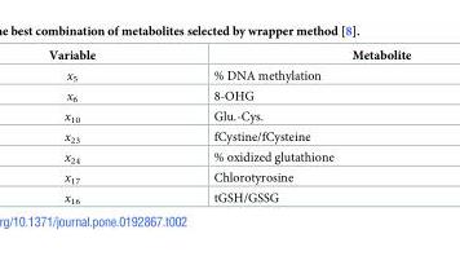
<table><thead><tr><td>Variable</td><td>Metabolite</td></tr></thead><tbody><tr><td>x<sub>5</sub></td><td>% DNA methylation</td></tr><tr><td>x<sub>6</sub></td><td>8-OHG</td></tr><tr><td>x<sub>10</sub></td><td>Glu.-Cys.</td></tr><tr><td>x<sub>23</sub></td><td>fCystine/fCysteine</td></tr><tr><td>x<sub>24</sub></td><td>% oxidized glutathione</td></tr><tr><td>x<sub>17</sub></td><td>Chlorotyrosine</td></tr><tr><td>x<sub>16</sub></td><td>tGSH/GSSG</td></tr></tbody></table>